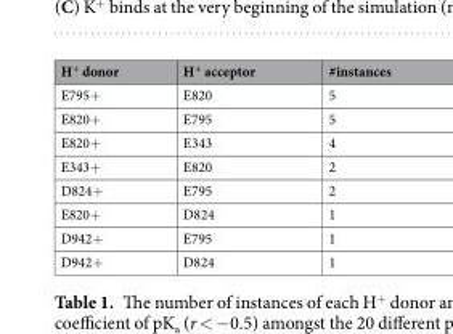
<table><thead><tr><td>H<sup>+</sup> donor</td><td>H<sup>+</sup> acceptor</td><td>#instances</td></tr></thead><tbody><tr><td>E795+</td><td>E820</td><td>5</td></tr><tr><td>E820+</td><td>E795</td><td>5</td></tr><tr><td>E820+</td><td>E343</td><td>4</td></tr><tr><td>E343+</td><td>E820</td><td>2</td></tr><tr><td>D824+</td><td>E795</td><td>2</td></tr><tr><td>E820+</td><td>D824</td><td>1</td></tr><tr><td>D942+</td><td>E795</td><td>1</td></tr><tr><td>D942+</td><td>D824</td><td>1</td></tr></tbody></table>